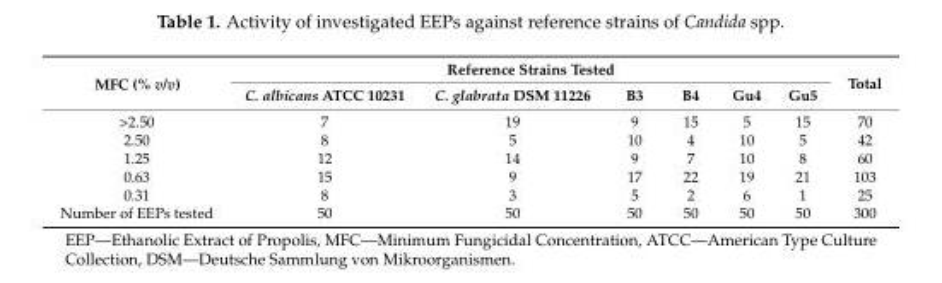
<table><thead><tr><td rowspan="2">MFC (% v/v)</td><td colspan="6">Reference Strains Tested</td><td rowspan="2">Total</td></tr><tr><td>C. albicans ATCC 10231</td><td>C. glabrata DSM 11226</td><td>B3</td><td>B4</td><td>Gu4</td><td>Gu5</td></tr></thead><tbody><tr><td>&gt;2.50</td><td>7</td><td>19</td><td>9</td><td>15</td><td>5</td><td>15</td><td>70</td></tr><tr><td>2.50</td><td>8</td><td>5</td><td>10</td><td>4</td><td>10</td><td>5</td><td>42</td></tr><tr><td>1.25</td><td>12</td><td>14</td><td>9</td><td>7</td><td>10</td><td>8</td><td>60</td></tr><tr><td>0.63</td><td>15</td><td>9</td><td>17</td><td>22</td><td>19</td><td>21</td><td>103</td></tr><tr><td>0.31</td><td>8</td><td>3</td><td>5</td><td>2</td><td>6</td><td>1</td><td>25</td></tr><tr><td>Number of EEPs tested</td><td>50</td><td>50</td><td>50</td><td>50</td><td>50</td><td>50</td><td>300</td></tr></tbody></table>